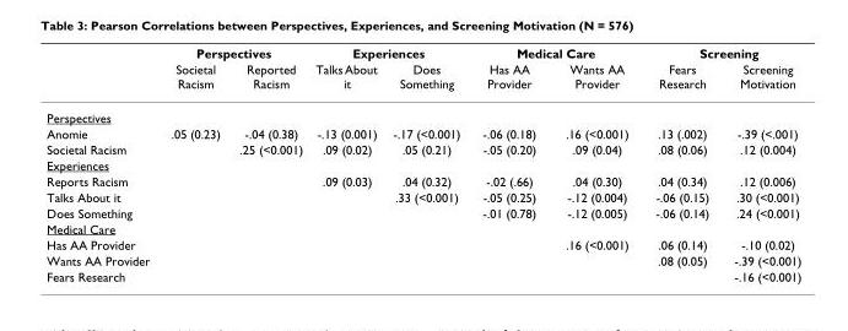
<table><thead><tr><td rowspan="2"></td><td colspan="2">Perspectives</td><td colspan="2">Experiences</td><td colspan="2">Medical Care</td><td colspan="2">Screening</td></tr><tr><td>Societal Racism</td><td>Reported Racism</td><td>Talks About it</td><td>Does Something</td><td>Has AA Provider</td><td>Wants AA Provider</td><td>Fears Research</td><td>Screening Motivation</td></tr></thead><tbody><tr><td colspan="9">Perspectives</td></tr><tr><td>Anomie</td><td>.05 (0.23)</td><td>-.04 (0.38)</td><td>-.13 (0.001)</td><td>-.17 (&lt;0.001)</td><td>-.06 (0.18)</td><td>.16 (&lt;0.001)</td><td>.13 (.002)</td><td>-.39 (&lt;.001)</td></tr><tr><td>Societal Racism</td><td></td><td>.25 (&lt;0.001)</td><td>.09 (0.02)</td><td>.05 (0.21)</td><td>-.05 (0.20)</td><td>.09 (0.04)</td><td>.08 (0.06)</td><td>.12 (0.004)</td></tr><tr><td colspan="9">Experiences</td></tr><tr><td>Reports Racism</td><td></td><td></td><td>.09 (0.03)</td><td>.04 (0.32)</td><td>-.02 (.66)</td><td>.04 (0.30)</td><td>.04 (0.34)</td><td>.12 (0.006)</td></tr><tr><td>Talks About it</td><td></td><td></td><td></td><td>.33 (&lt;0.001)</td><td>-.05 (0.25)</td><td>-.12 (0.004)</td><td>-.06 (0.15)</td><td>.30 (&lt;0.001)</td></tr><tr><td>Does Something</td><td></td><td></td><td></td><td></td><td>-.01 (0.78)</td><td>-.12 (0.005)</td><td>-.06 (0.14)</td><td>.24 (&lt;0.001)</td></tr><tr><td colspan="9">Medical Care</td></tr><tr><td>Has AA Provider</td><td></td><td></td><td></td><td></td><td></td><td>.16 (&lt;0.001)</td><td>.06 (0.14)</td><td>-.10 (0.02)</td></tr><tr><td>Wants AA Provider</td><td></td><td></td><td></td><td></td><td></td><td></td><td>.08 (0.05)</td><td>-.39 (&lt;0.001)</td></tr><tr><td>Fears Research</td><td></td><td></td><td></td><td></td><td></td><td></td><td></td><td>-.16 (&lt;0.001)</td></tr></tbody></table>